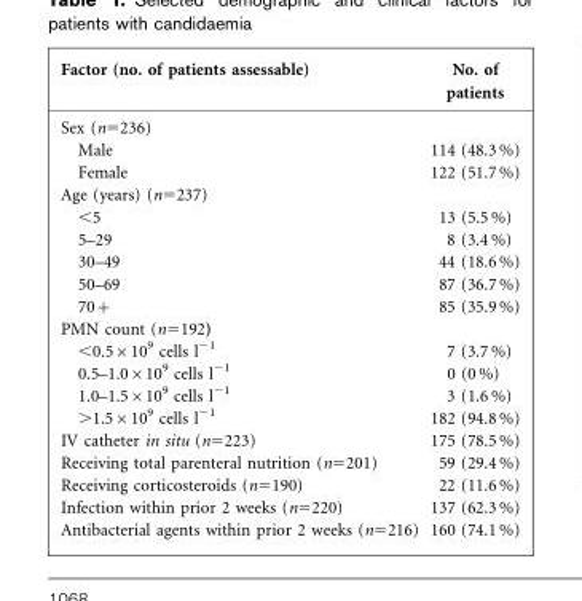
<table><thead><tr><td>Factor (no. of patients assessable)</td><td>No. of patients</td></tr></thead><tbody><tr><td colspan="2">Sex (n=236)</td></tr><tr><td>Male</td><td>114 (48.3 %)</td></tr><tr><td>Female</td><td>122 (51.7 %)</td></tr><tr><td colspan="2">Age (years) (n=237)</td></tr><tr><td>&lt;5</td><td>13 (5.5 %)</td></tr><tr><td>5–29</td><td>8 (3.4 %)</td></tr><tr><td>30–49</td><td>44 (18.6 %)</td></tr><tr><td>50–69</td><td>87 (36.7 %)</td></tr><tr><td>70+</td><td>85 (35.9 %)</td></tr><tr><td colspan="2">PMN count (n=192)</td></tr><tr><td>&lt;0.5×10<sup>9</sup> cells l<sup>−1</sup></td><td>7 (3.7 %)</td></tr><tr><td>0.5–1.0×10<sup>9</sup> cells l<sup>−1</sup></td><td>0 (0 %)</td></tr><tr><td>1.0–1.5×10<sup>9</sup> cells l<sup>−1</sup></td><td>3 (1.6 %)</td></tr><tr><td>&gt;1.5×10<sup>9</sup> cells l<sup>−1</sup></td><td>182 (94.8 %)</td></tr><tr><td>IV catheter in situ (n=223)</td><td>175 (78.5 %)</td></tr><tr><td>Receiving total parenteral nutrition (n=201)</td><td>59 (29.4 %)</td></tr><tr><td>Receiving corticosteroids (n=190)</td><td>22 (11.6 %)</td></tr><tr><td>Infection within prior 2 weeks (n=220)</td><td>137 (62.3 %)</td></tr><tr><td>Antibacterial agents within prior 2 weeks (n=216)</td><td>160 (74.1 %)</td></tr></tbody></table>